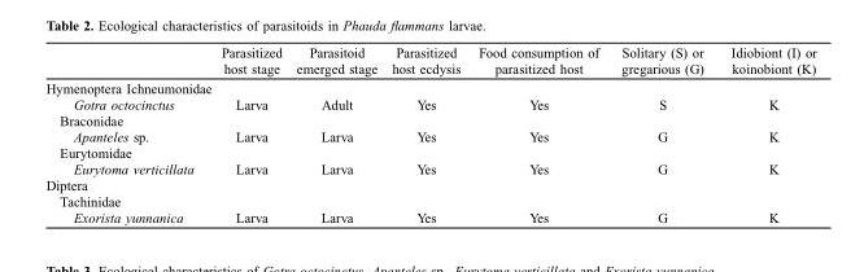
<table><thead><tr><td></td><td>Parasitized host stage</td><td>Parasitoid emerged stage</td><td>Parasitized host ecdysis</td><td>Food consumption of parasitized host</td><td>Solitary (S) or gregarious (G)</td><td>Idiobiont (I) or koinobiont (K)</td></tr></thead><tbody><tr><td colspan="7">Hymenoptera Ichneumonidae</td></tr><tr><td>Gotra octocinctus</td><td>Larva</td><td>Adult</td><td>Yes</td><td>Yes</td><td>S</td><td>K</td></tr><tr><td colspan="7">Braconidae</td></tr><tr><td>Apanteles sp.</td><td>Larva</td><td>Larva</td><td>Yes</td><td>Yes</td><td>G</td><td>K</td></tr><tr><td colspan="7">Eurytomidae</td></tr><tr><td>Eurytoma verticillata</td><td>Larva</td><td>Larva</td><td>Yes</td><td>Yes</td><td>G</td><td>K</td></tr><tr><td colspan="7">Diptera</td></tr><tr><td colspan="7">Tachinidae</td></tr><tr><td>Exorista yunnanica</td><td>Larva</td><td>Larva</td><td>Yes</td><td>Yes</td><td>G</td><td>K</td></tr></tbody></table>